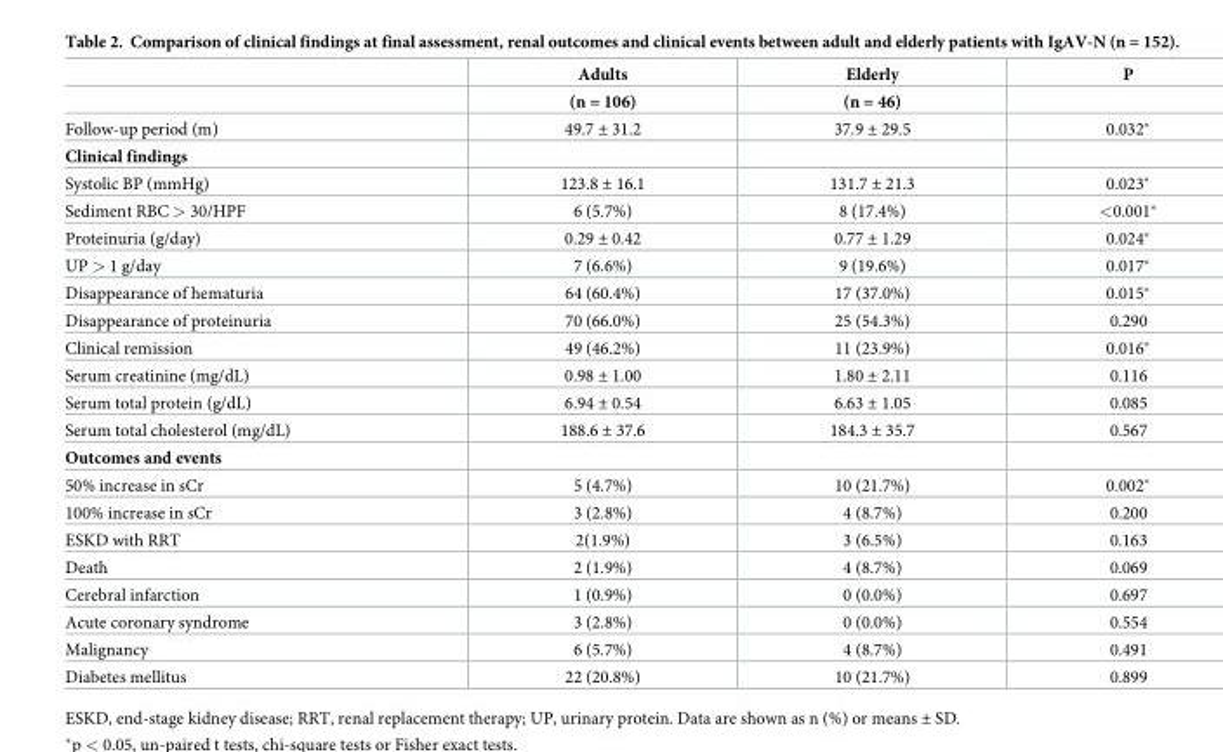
<table><thead><tr><td rowspan="2"></td><td rowspan="2">Adults (n = 106)</td><td rowspan="2">Elderly (n = 46)</td><td rowspan="2">P</td></tr><tr></tr></thead><tbody><tr><td>Follow-up period (m)</td><td>49.7 ± 31.2</td><td>37.9 ± 29.5</td><td>0.032*</td></tr><tr><td colspan="4">Clinical findings</td></tr><tr><td>Systolic BP (mmHg)</td><td>123.8 ± 16.1</td><td>131.7 ± 21.3</td><td>0.023*</td></tr><tr><td>Sediment RBC &gt; 30/HPF</td><td>6 (5.7%)</td><td>8 (17.4%)</td><td>&lt;0.001*</td></tr><tr><td>Proteinuria (g/day)</td><td>0.29 ± 0.42</td><td>0.77 ± 1.29</td><td>0.024*</td></tr><tr><td>UP &gt; 1 g/day</td><td>7 (6.6%)</td><td>9 (19.6%)</td><td>0.017*</td></tr><tr><td>Disappearance of hematuria</td><td>64 (60.4%)</td><td>17 (37.0%)</td><td>0.015*</td></tr><tr><td>Disappearance of proteinuria</td><td>70 (66.0%)</td><td>25 (54.3%)</td><td>0.290</td></tr><tr><td>Clinical remission</td><td>49 (46.2%)</td><td>11 (23.9%)</td><td>0.016*</td></tr><tr><td>Serum creatinine (mg/dL)</td><td>0.98 ± 1.00</td><td>1.80 ± 2.11</td><td>0.116</td></tr><tr><td>Serum total protein (g/dL)</td><td>6.94 ± 0.54</td><td>6.63 ± 1.05</td><td>0.085</td></tr><tr><td>Serum total cholesterol (mg/dL)</td><td>188.6 ± 37.6</td><td>184.3 ± 35.7</td><td>0.567</td></tr><tr><td colspan="4">Outcomes and events</td></tr><tr><td>50% increase in sCr</td><td>5 (4.7%)</td><td>10 (21.7%)</td><td>0.002*</td></tr><tr><td>100% increase in sCr</td><td>3 (2.8%)</td><td>4 (8.7%)</td><td>0.200</td></tr><tr><td>ESKD with RRT</td><td>2(1.9%)</td><td>3 (6.5%)</td><td>0.163</td></tr><tr><td>Death</td><td>2 (1.9%)</td><td>4 (8.7%)</td><td>0.069</td></tr><tr><td>Cerebral infarction</td><td>1 (0.9%)</td><td>0 (0.0%)</td><td>0.697</td></tr><tr><td>Acute coronary syndrome</td><td>3 (2.8%)</td><td>0 (0.0%)</td><td>0.554</td></tr><tr><td>Malignancy</td><td>6 (5.7%)</td><td>4 (8.7%)</td><td>0.491</td></tr><tr><td>Diabetes mellitus</td><td>22 (20.8%)</td><td>10 (21.7%)</td><td>0.899</td></tr></tbody></table>